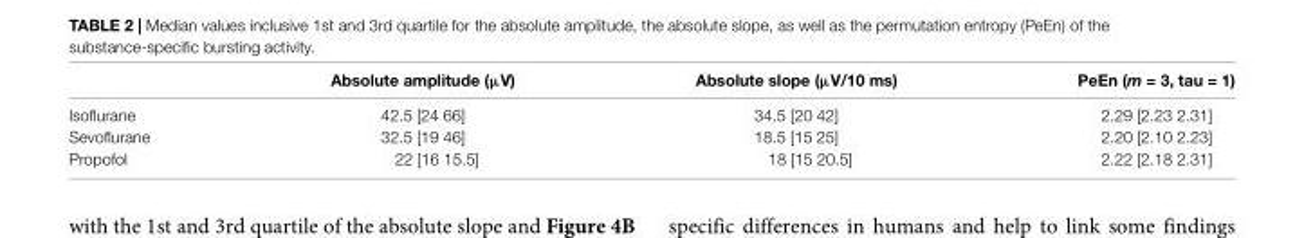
<table><thead><tr><td></td><td>Absolute amplitude (µV)</td><td>Absolute slope (µV/10 ms)</td><td>PeEn (m = 3, tau = 1)</td></tr></thead><tbody><tr><td>Isoflurane</td><td>42.5 [24 66]</td><td>34.5 [20 42]</td><td>2.29 [2.23 2.31]</td></tr><tr><td>Sevoflurane</td><td>32.5 [19 46]</td><td>18.5 [15 25]</td><td>2.20 [2.10 2.23]</td></tr><tr><td>Propofol</td><td>22 [16 15.5]</td><td>18 [15 20.5]</td><td>2.22 [2.18 2.31]</td></tr></tbody></table>